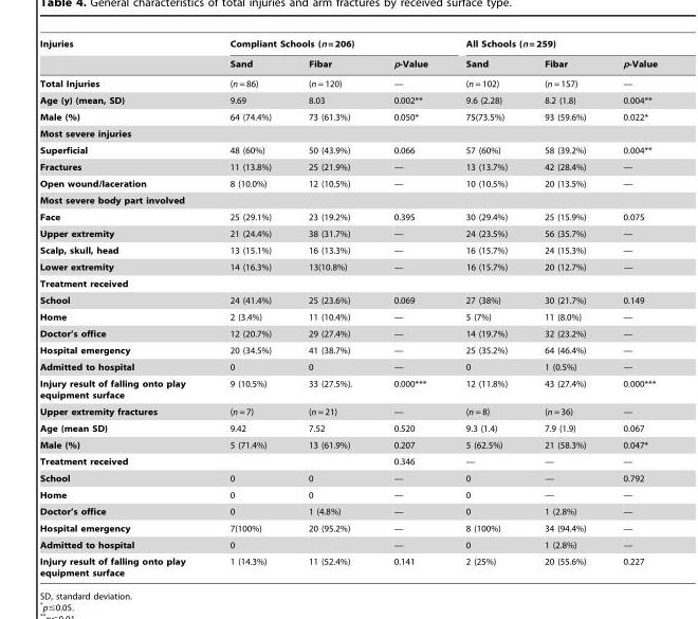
<table><thead><tr><td rowspan="2">Injuries</td><td colspan="3">Compliant Schools (n = 206)</td><td colspan="3">All Schools (n = 259)</td></tr><tr><td>Sand</td><td>Fibar</td><td>p-Value</td><td>Sand</td><td>Fibar</td><td>p-Value</td></tr></thead><tbody><tr><td>Total Injuries</td><td>(n = 86)</td><td>(n = 120)</td><td>—</td><td>(n = 102)</td><td>(n = 157)</td><td>—</td></tr><tr><td>Age (y) (mean, SD)</td><td>9.69</td><td>8.03</td><td>0.002**</td><td>9.6 (2.28)</td><td>8.2 (1.8)</td><td>0.004**</td></tr><tr><td>Male (%)</td><td>64 (74.4%)</td><td>73 (61.3%)</td><td>0.050*</td><td>75(73.5%)</td><td>93 (59.6%)</td><td>0.022*</td></tr><tr><td colspan="7">Most severe injuries</td></tr><tr><td>Superficial</td><td>48 (60%)</td><td>50 (43.9%)</td><td>0.066</td><td>57 (60%)</td><td>58 (39.2%)</td><td>0.004**</td></tr><tr><td>Fractures</td><td>11 (13.8%)</td><td>25 (21.9%)</td><td>—</td><td>13 (13.7%)</td><td>42 (28.4%)</td><td>—</td></tr><tr><td>Open wound/laceration</td><td>8 (10.0%)</td><td>12 (10.5%)</td><td>—</td><td>10 (10.5%)</td><td>20 (13.5%)</td><td>—</td></tr><tr><td colspan="7">Most severe body part involved</td></tr><tr><td>Face</td><td>25 (29.1%)</td><td>23 (19.2%)</td><td>0.395</td><td>30 (29.4%)</td><td>25 (15.9%)</td><td>0.075</td></tr><tr><td>Upper extremity</td><td>21 (24.4%)</td><td>38 (31.7%)</td><td>—</td><td>24 (23.5%)</td><td>56 (35.7%)</td><td>—</td></tr><tr><td>Scalp, skull, head</td><td>13 (15.1%)</td><td>16 (13.3%)</td><td>—</td><td>16 (15.7%)</td><td>24 (15.3%)</td><td>—</td></tr><tr><td>Lower extremity</td><td>14 (16.3%)</td><td>13(10.8%)</td><td>—</td><td>16 (15.7%)</td><td>20 (12.7%)</td><td>—</td></tr><tr><td colspan="7">Treatment received</td></tr><tr><td>School</td><td>24 (41.4%)</td><td>25 (23.6%)</td><td>0.069</td><td>27 (38%)</td><td>30 (21.7%)</td><td>0.149</td></tr><tr><td>Home</td><td>2 (3.4%)</td><td>11 (10.4%)</td><td>—</td><td>5 (7%)</td><td>11 (8.0%)</td><td>—</td></tr><tr><td>Doctor’s office</td><td>12 (20.7%)</td><td>29 (27.4%)</td><td>—</td><td>14 (19.7%)</td><td>32 (23.2%)</td><td>—</td></tr><tr><td>Hospital emergency</td><td>20 (34.5%)</td><td>41 (38.7%)</td><td>—</td><td>25 (35.2%)</td><td>64 (46.4%)</td><td>—</td></tr><tr><td>Admitted to hospital</td><td>0</td><td>0</td><td>—</td><td>0</td><td>1 (0.5%)</td><td>—</td></tr><tr><td>Injury result of falling onto play equipment surface</td><td>9 (10.5%)</td><td>33 (27.5%).</td><td>0.000***</td><td>12 (11.8%)</td><td>43 (27.4%)</td><td>0.000***</td></tr><tr><td>Upper extremity fractures</td><td>(n = 7)</td><td>(n = 21)</td><td>—</td><td>(n = 8)</td><td>(n = 36)</td><td>—</td></tr><tr><td>Age (mean SD)</td><td>9.42</td><td>7.52</td><td>0.520</td><td>9.3 (1.4)</td><td>7.9 (1.9)</td><td>0.067</td></tr><tr><td>Male (%)</td><td>5 (71.4%)</td><td>13 (61.9%)</td><td>0.207</td><td>5 (62.5%)</td><td>21 (58.3%)</td><td>0.047*</td></tr><tr><td>Treatment received</td><td></td><td></td><td>0.346</td><td>—</td><td>—</td><td>—</td></tr><tr><td>School</td><td>0</td><td>0</td><td>—</td><td>0</td><td>—</td><td>0.792</td></tr><tr><td>Home</td><td>0</td><td>0</td><td>—</td><td>0</td><td>—</td><td>—</td></tr><tr><td>Doctor’s office</td><td>0</td><td>1 (4.8%)</td><td>—</td><td>0</td><td>1 (2.8%)</td><td>—</td></tr><tr><td>Hospital emergency</td><td>7(100%)</td><td>20 (95.2%)</td><td>—</td><td>8 (100%)</td><td>34 (94.4%)</td><td>—</td></tr><tr><td>Admitted to hospital</td><td>0</td><td></td><td>—</td><td>0</td><td>1 (2.8%)</td><td>—</td></tr><tr><td>Injury result of falling onto play equipment surface</td><td>1 (14.3%)</td><td>11 (52.4%)</td><td>0.141</td><td>2 (25%)</td><td>20 (55.6%)</td><td>0.227</td></tr></tbody></table>